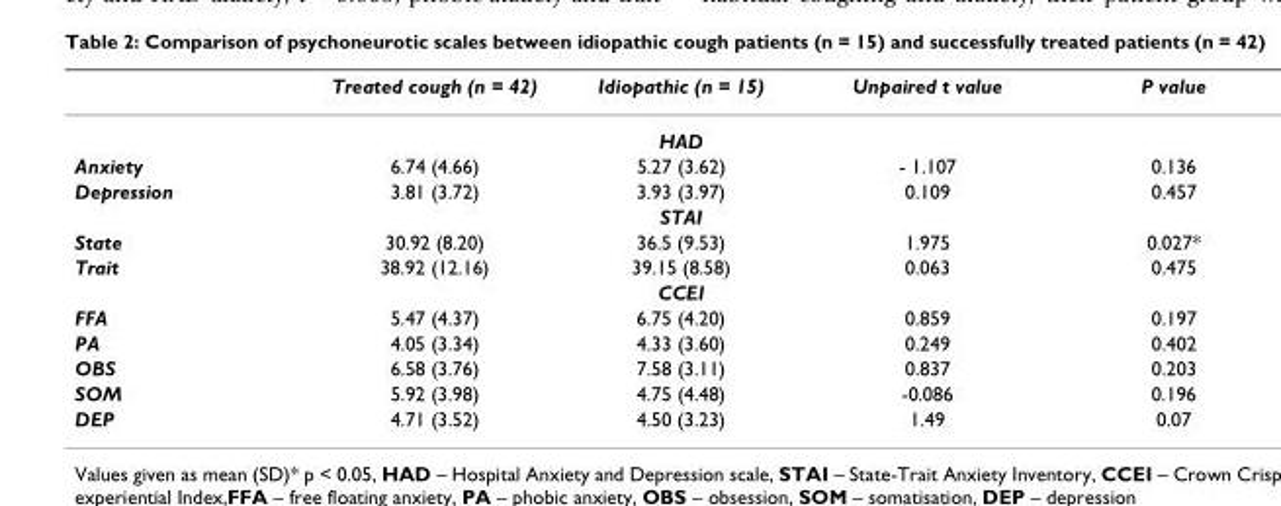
<table><thead><tr><td></td><td>Treated cough (n = 42)</td><td>Idiopathic (n = 15)</td><td>Unpaired t value</td><td>P value</td></tr></thead><tbody><tr><td colspan="5">HAD</td></tr><tr><td>Anxiety</td><td>6.74 (4.66)</td><td>5.27 (3.62)</td><td>- 1.107</td><td>0.136</td></tr><tr><td>Depression</td><td>3.81 (3.72)</td><td>3.93 (3.97)</td><td>0.109</td><td>0.457</td></tr><tr><td colspan="5">STAI</td></tr><tr><td>State</td><td>30.92 (8.20)</td><td>36.5 (9.53)</td><td>1.975</td><td>0.027*</td></tr><tr><td>Trait</td><td>38.92 (12.16)</td><td>39.15 (8.58)</td><td>0.063</td><td>0.475</td></tr><tr><td colspan="5">CCEI</td></tr><tr><td>FFA</td><td>5.47 (4.37)</td><td>6.75 (4.20)</td><td>0.859</td><td>0.197</td></tr><tr><td>PA</td><td>4.05 (3.34)</td><td>4.33 (3.60)</td><td>0.249</td><td>0.402</td></tr><tr><td>OBS</td><td>6.58 (3.76)</td><td>7.58 (3.11)</td><td>0.837</td><td>0.203</td></tr><tr><td>SOM</td><td>5.92 (3.98)</td><td>4.75 (4.48)</td><td>-0.086</td><td>0.196</td></tr><tr><td>DEP</td><td>4.71 (3.52)</td><td>4.50 (3.23)</td><td>1.49</td><td>0.07</td></tr></tbody></table>